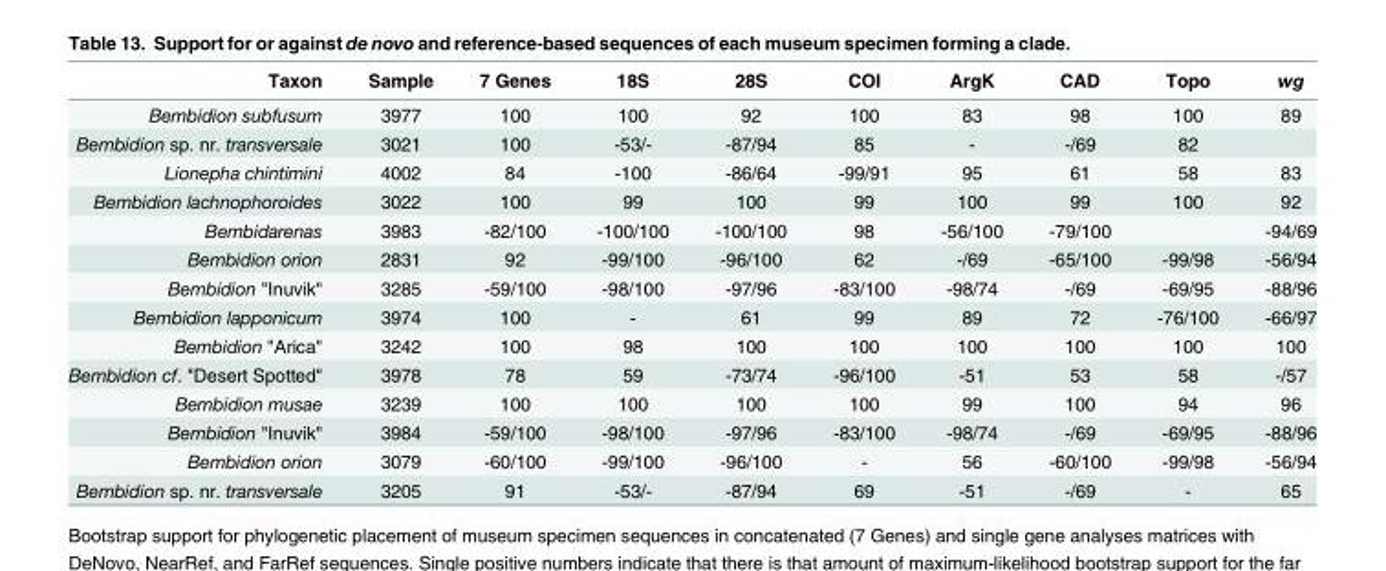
<table><thead><tr><td>Taxon</td><td>Sample</td><td>7 Genes</td><td>18S</td><td>28S</td><td>COI</td><td>ArgK</td><td>CAD</td><td>Topo</td><td>wg</td></tr></thead><tbody><tr><td>Bembidion subfusum</td><td>3977</td><td>100</td><td>100</td><td>92</td><td>100</td><td>83</td><td>98</td><td>100</td><td>89</td></tr><tr><td>Bembidion sp. nr. transversale</td><td>3021</td><td>100</td><td>-53/-</td><td>-87/94</td><td>85</td><td>-</td><td>-/69</td><td>82</td><td></td></tr><tr><td>Lionepha chintimini</td><td>4002</td><td>84</td><td>-100</td><td>-86/64</td><td>-99/91</td><td>95</td><td>61</td><td>58</td><td>83</td></tr><tr><td>Bembidion lachnophoroides</td><td>3022</td><td>100</td><td>99</td><td>100</td><td>99</td><td>100</td><td>99</td><td>100</td><td>92</td></tr><tr><td>Bembidarenas</td><td>3983</td><td>-82/100</td><td>-100/100</td><td>-100/100</td><td>98</td><td>-56/100</td><td>-79/100</td><td></td><td>-94/69</td></tr><tr><td>Bembidion orion</td><td>2831</td><td>92</td><td>-99/100</td><td>-96/100</td><td>62</td><td>-/69</td><td>-65/100</td><td>-99/98</td><td>-56/94</td></tr><tr><td>Bembidion &quot;Inuvik&quot;</td><td>3285</td><td>-59/100</td><td>-98/100</td><td>-97/96</td><td>-83/100</td><td>-98/74</td><td>-/69</td><td>-69/95</td><td>-88/96</td></tr><tr><td>Bembidion lapponicum</td><td>3974</td><td>100</td><td>-</td><td>61</td><td>99</td><td>89</td><td>72</td><td>-76/100</td><td>-66/97</td></tr><tr><td>Bembidion &quot;Arica&quot;</td><td>3242</td><td>100</td><td>98</td><td>100</td><td>100</td><td>100</td><td>100</td><td>100</td><td>100</td></tr><tr><td>Bembidion cf. &quot;Desert Spotted&quot;</td><td>3978</td><td>78</td><td>59</td><td>-73/74</td><td>-96/100</td><td>-51</td><td>53</td><td>58</td><td>-/57</td></tr><tr><td>Bembidion musae</td><td>3239</td><td>100</td><td>100</td><td>100</td><td>100</td><td>99</td><td>100</td><td>94</td><td>96</td></tr><tr><td>Bembidion &quot;Inuvik&quot;</td><td>3984</td><td>-59/100</td><td>-98/100</td><td>-97/96</td><td>-83/100</td><td>-98/74</td><td>-/69</td><td>-69/95</td><td>-88/96</td></tr><tr><td>Bembidion orion</td><td>3079</td><td>-60/100</td><td>-99/100</td><td>-96/100</td><td>-</td><td>56</td><td>-60/100</td><td>-99/98</td><td>-56/94</td></tr><tr><td>Bembidion sp. nr. transversale</td><td>3205</td><td>91</td><td>-53/-</td><td>-87/94</td><td>69</td><td>-51</td><td>-/69</td><td>-</td><td>65</td></tr></tbody></table>